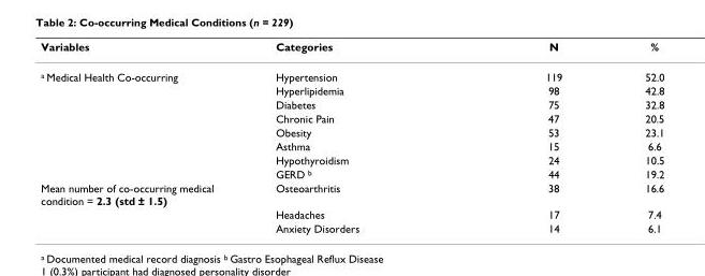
<table><thead><tr><td>Variables</td><td>Categories</td><td>N</td><td>%</td></tr></thead><tbody><tr><td rowspan="8"><sup>a</sup> Medical Health Co-occurring</td><td>Hypertension</td><td>119</td><td>52.0</td></tr><tr><td>Hyperlipidemia</td><td>98</td><td>42.8</td></tr><tr><td>Diabetes</td><td>75</td><td>32.8</td></tr><tr><td>Chronic Pain</td><td>47</td><td>20.5</td></tr><tr><td>Obesity</td><td>53</td><td>23.1</td></tr><tr><td>Asthma</td><td>15</td><td>6.6</td></tr><tr><td>Hypothyroidism</td><td>24</td><td>10.5</td></tr><tr><td>GERD <sup>b</sup></td><td>44</td><td>19.2</td></tr><tr><td rowspan="3">Mean number of co-occurring medical condition = 2.3 (std ± 1.5)</td><td>Osteoarthritis</td><td>38</td><td>16.6</td></tr><tr><td>Headaches</td><td>17</td><td>7.4</td></tr><tr><td>Anxiety Disorders</td><td>14</td><td>6.1</td></tr></tbody></table>